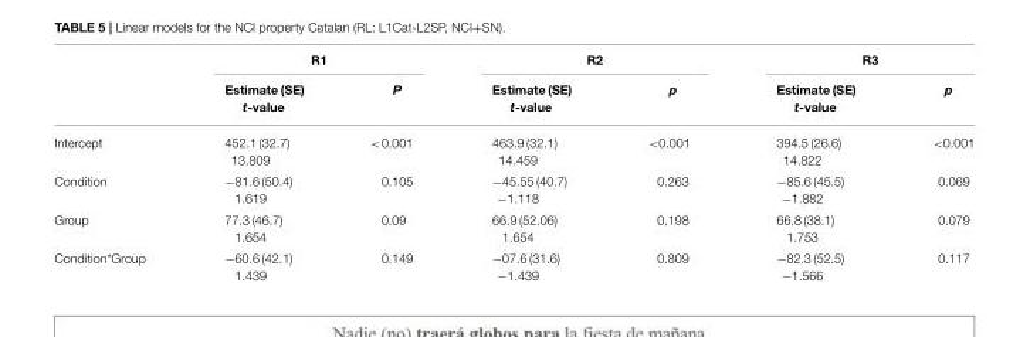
<table><thead><tr><td rowspan="2"></td><td colspan="2">R1</td><td colspan="2">R2</td><td colspan="2">R3</td></tr><tr><td>Estimate (SE) t-value</td><td>P</td><td>Estimate (SE) t-value</td><td>p</td><td>Estimate (SE) t-value</td><td>p</td></tr></thead><tbody><tr><td>Intercept</td><td>452.1 (32.7) 13.809</td><td>&lt;0.001</td><td>463.9 (32.1) 14.459</td><td>&lt;0.001</td><td>394.5 (26.6) 14.822</td><td>&lt;0.001</td></tr><tr><td>Condition</td><td>−81.6 (50.4) 1.619</td><td>0.105</td><td>−45.55 (40.7) −1.118</td><td>0.263</td><td>−85.6 (45.5) −1.882</td><td>0.069</td></tr><tr><td>Group</td><td>77.3 (46.7) 1.654</td><td>0.09</td><td>66.9 (52.06) 1.654</td><td>0.198</td><td>66.8 (38.1) 1.753</td><td>0.079</td></tr><tr><td>Condition*Group</td><td>−60.6 (42.1) 1.439</td><td>0.149</td><td>−07.6 (31.6) −1.439</td><td>0.809</td><td>−82.3 (52.5) −1.566</td><td>0.117</td></tr></tbody></table>